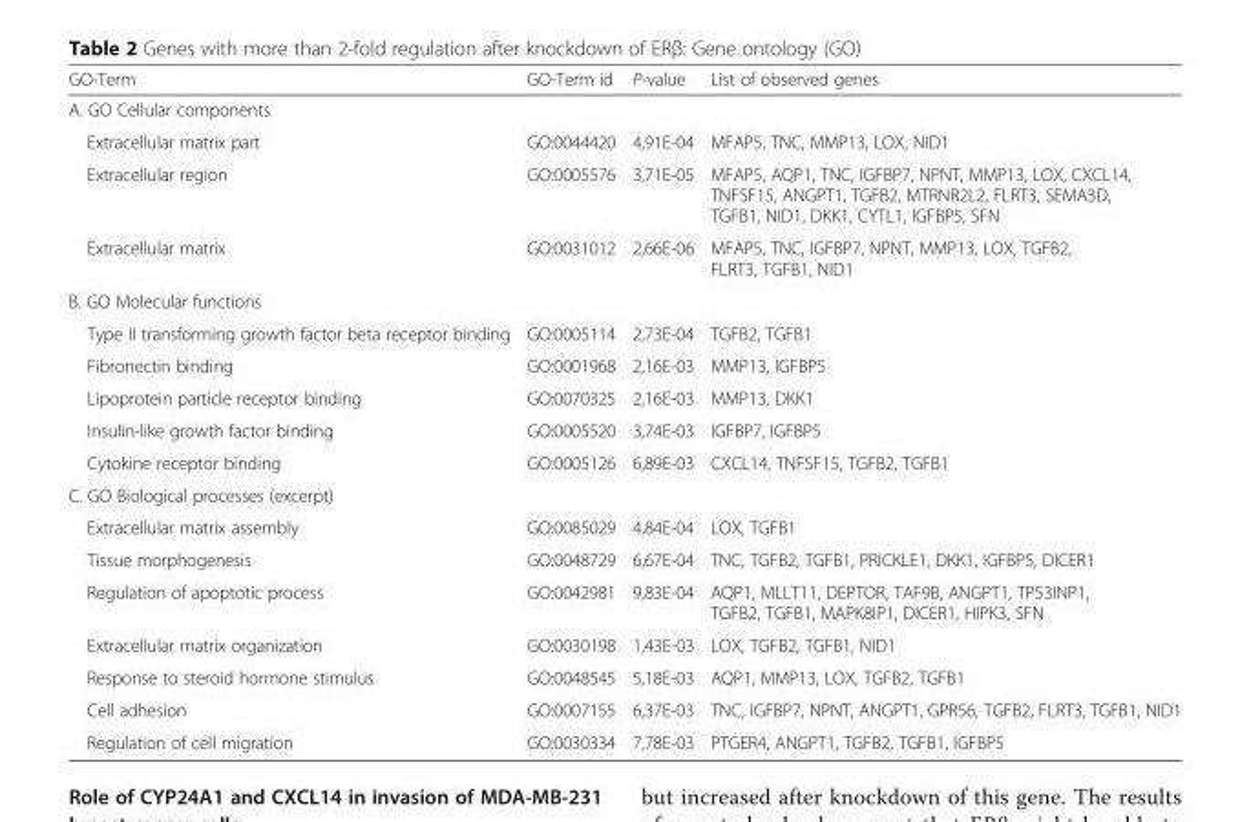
<table><thead><tr><td>GO-Term</td><td>GO-Term id</td><td>P-value</td><td>List of observed genes</td></tr></thead><tbody><tr><td colspan="4">A. GO Cellular components</td></tr><tr><td>Extracellular matrix part</td><td>GO:0044420</td><td>4,91E-04</td><td>MFAP5, TNC, MMP13, LOX, NID1</td></tr><tr><td>Extracellular region</td><td>GO:0005576</td><td>3,71E-05</td><td>MFAP5, AQP1, TNC, IGFBP7, NPNT, MMP13, LOX, CXCL14, TNFSF15, ANGPT1, TGFB2, MTRNR2L2, FLRT3, SEMA3D, TGFB1, NID1, DKK1, CYTL1, IGFBP5, SFN</td></tr><tr><td>Extracellular matrix</td><td>GO:0031012</td><td>2,66E-06</td><td>MFAP5, TNC, IGFBP7, NPNT, MMP13, LOX, TGFB2, FLRT3, TGFB1, NID1</td></tr><tr><td colspan="4">B. GO Molecular functions</td></tr><tr><td>Type II transforming growth factor beta receptor binding</td><td>GO:0005114</td><td>2,73E-04</td><td>TGFB2, TGFB1</td></tr><tr><td>Fibronectin binding</td><td>GO:0001968</td><td>2,16E-03</td><td>MMP13, IGFBP5</td></tr><tr><td>Lipoprotein particle receptor binding</td><td>GO:0070325</td><td>2,16E-03</td><td>MMP13, DKK1</td></tr><tr><td>Insulin-like growth factor binding</td><td>GO:0005520</td><td>3,74E-03</td><td>IGFBP7, IGFBP5</td></tr><tr><td>Cytokine receptor binding</td><td>GO:0005126</td><td>6,89E-03</td><td>CXCL14, TNFSF15, TGFB2, TGFB1</td></tr><tr><td colspan="4">C. GO Biological processes (excerpt)</td></tr><tr><td>Extracellular matrix assembly</td><td>GO:0085029</td><td>4,84E-04</td><td>LOX, TGFB1</td></tr><tr><td>Tissue morphogenesis</td><td>GO:0048729</td><td>6,67E-04</td><td>TNC, TGFB2, TGFB1, PRICKLE1, DKK1, IGFBP5, DICER1</td></tr><tr><td>Regulation of apoptotic process</td><td>GO:0042981</td><td>9,83E-04</td><td>AQP1, MLLT11, DEPTOR, TAF9B, ANGPT1, TP53INP1, TGFB2, TGFB1, MAPK8IP1, DICER1, HIPK3, SFN</td></tr><tr><td>Extracellular matrix organization</td><td>GO:0030198</td><td>1,43E-03</td><td>LOX, TGFB2, TGFB1, NID1</td></tr><tr><td>Response to steroid hormone stimulus</td><td>GO:0048545</td><td>5,18E-03</td><td>AQP1, MMP13, LOX, TGFB2, TGFB1</td></tr><tr><td>Cell adhesion</td><td>GO:0007155</td><td>6,37E-03</td><td>TNC, IGFBP7, NPNT, ANGPT1, GPR56, TGFB2, FLRT3, TGFB1, NID1</td></tr><tr><td>Regulation of cell migration</td><td>GO:0030334</td><td>7,78E-03</td><td>PTGER4, ANGPT1, TGFB2, TGFB1, IGFBP5</td></tr></tbody></table>